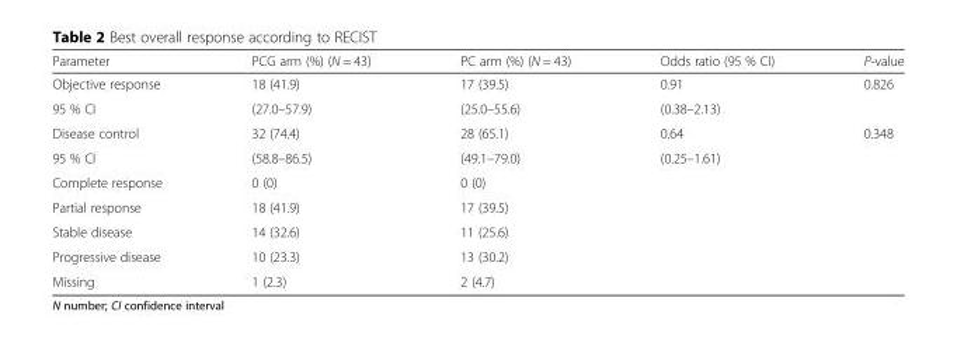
<table><thead><tr><td>Parameter</td><td>PCG arm (%) (N = 43)</td><td>PC arm (%) (N = 43)</td><td>Odds ratio (95 % CI)</td><td>P-value</td></tr></thead><tbody><tr><td>Objective response</td><td>18 (41.9)</td><td>17 (39.5)</td><td>0.91</td><td>0.826</td></tr><tr><td>95 % CI</td><td>(27.0–57.9)</td><td>(25.0–55.6)</td><td>(0.38–2.13)</td><td></td></tr><tr><td>Disease control</td><td>32 (74.4)</td><td>28 (65.1)</td><td>0.64</td><td>0.348</td></tr><tr><td>95 % CI</td><td>(58.8–86.5)</td><td>(49.1–79.0)</td><td>(0.25–1.61)</td><td></td></tr><tr><td>Complete response</td><td>0 (0)</td><td>0 (0)</td><td></td><td></td></tr><tr><td>Partial response</td><td>18 (41.9)</td><td>17 (39.5)</td><td></td><td></td></tr><tr><td>Stable disease</td><td>14 (32.6)</td><td>11 (25.6)</td><td></td><td></td></tr><tr><td>Progressive disease</td><td>10 (23.3)</td><td>13 (30.2)</td><td></td><td></td></tr><tr><td>Missing</td><td>1 (2.3)</td><td>2 (4.7)</td><td></td><td></td></tr></tbody></table>